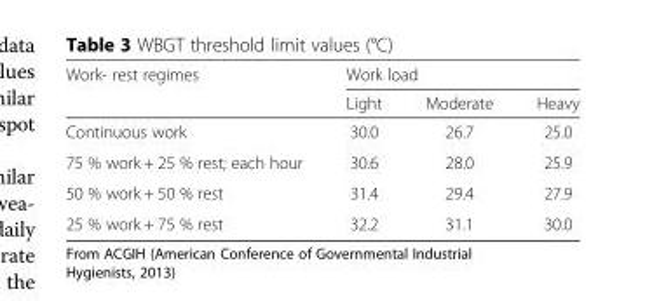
<table><thead><tr><td rowspan="2">Work- rest regimes</td><td colspan="3">Work load</td></tr><tr><td>Light</td><td>Moderate</td><td>Heavy</td></tr></thead><tbody><tr><td>Continuous work</td><td>30.0</td><td>26.7</td><td>25.0</td></tr><tr><td>75 % work + 25 % rest; each hour</td><td>30.6</td><td>28.0</td><td>25.9</td></tr><tr><td>50 % work + 50 % rest</td><td>31.4</td><td>29.4</td><td>27.9</td></tr><tr><td>25 % work + 75 % rest</td><td>32.2</td><td>31.1</td><td>30.0</td></tr></tbody></table>